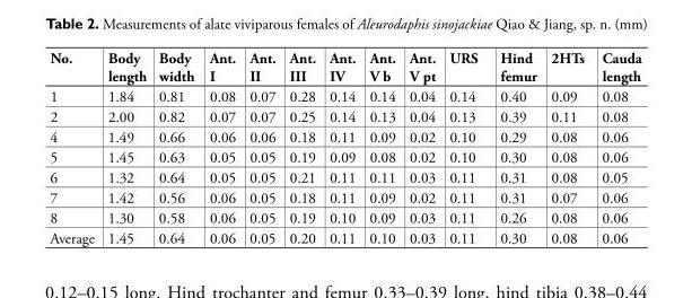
<table><thead><tr><td>No.</td><td>Body length</td><td>Body width</td><td>Ant. I</td><td>Ant. II</td><td>Ant. III</td><td>Ant. IV</td><td>Ant. V b</td><td>Ant. V pt</td><td>URS</td><td>Hind femur</td><td>2HTs</td><td>Cauda length</td></tr></thead><tbody><tr><td>1</td><td>1.84</td><td>0.81</td><td>0.08</td><td>0.07</td><td>0.28</td><td>0.14</td><td>0.14</td><td>0.04</td><td>0.14</td><td>0.40</td><td>0.09</td><td>0.08</td></tr><tr><td>2</td><td>2.00</td><td>0.82</td><td>0.07</td><td>0.07</td><td>0.25</td><td>0.14</td><td>0.13</td><td>0.04</td><td>0.13</td><td>0.39</td><td>0.11</td><td>0.08</td></tr><tr><td>4</td><td>1.49</td><td>0.66</td><td>0.06</td><td>0.06</td><td>0.18</td><td>0.11</td><td>0.09</td><td>0.02</td><td>0.10</td><td>0.29</td><td>0.08</td><td>0.06</td></tr><tr><td>5</td><td>1.45</td><td>0.63</td><td>0.05</td><td>0.05</td><td>0.19</td><td>0.09</td><td>0.08</td><td>0.02</td><td>0.10</td><td>0.30</td><td>0.08</td><td>0.06</td></tr><tr><td>6</td><td>1.32</td><td>0.64</td><td>0.05</td><td>0.05</td><td>0.21</td><td>0.11</td><td>0.11</td><td>0.03</td><td>0.11</td><td>0.31</td><td>0.08</td><td>0.05</td></tr><tr><td>7</td><td>1.42</td><td>0.56</td><td>0.06</td><td>0.05</td><td>0.18</td><td>0.11</td><td>0.09</td><td>0.02</td><td>0.11</td><td>0.31</td><td>0.07</td><td>0.06</td></tr><tr><td>8</td><td>1.30</td><td>0.58</td><td>0.06</td><td>0.05</td><td>0.19</td><td>0.10</td><td>0.09</td><td>0.03</td><td>0.11</td><td>0.26</td><td>0.08</td><td>0.06</td></tr><tr><td>Average</td><td>1.45</td><td>0.64</td><td>0.06</td><td>0.05</td><td>0.20</td><td>0.11</td><td>0.10</td><td>0.03</td><td>0.11</td><td>0.30</td><td>0.08</td><td>0.06</td></tr></tbody></table>